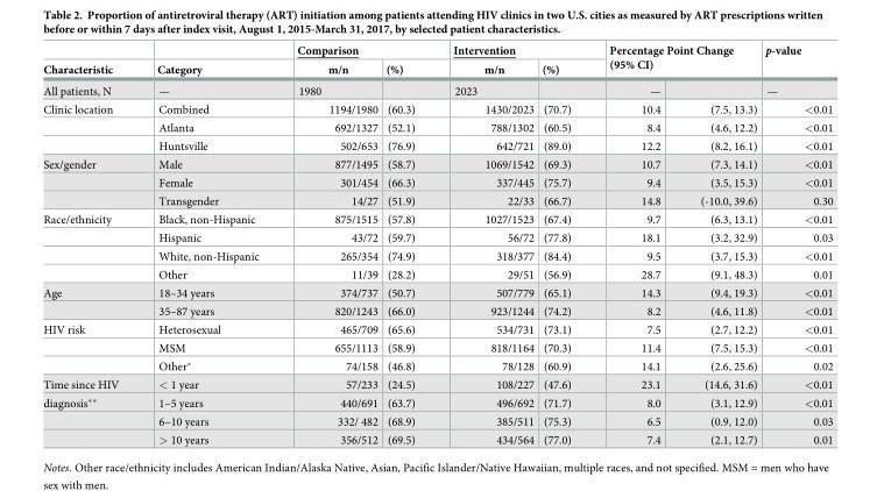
<table><thead><tr><td rowspan="3">Characteristic All patients, N</td><td rowspan="3">Category —</td><td colspan="2">Comparison</td><td colspan="2">Intervention</td><td rowspan="2" colspan="2">Percentage Point Change (95% CI)</td><td rowspan="3">p-value —</td></tr><tr><td rowspan="2">m/n 1980</td><td rowspan="2">(%)</td><td rowspan="2">m/n 2023</td><td rowspan="2">(%)</td></tr><tr><td>—</td><td></td></tr></thead><tbody><tr><td rowspan="3">Clinic location</td><td>Combined</td><td>1194/1980</td><td>(60.3)</td><td>1430/2023</td><td>(70.7)</td><td>10.4</td><td>(7.5, 13.3)</td><td>&lt;0.01</td></tr><tr><td>Atlanta</td><td>692/1327</td><td>(52.1)</td><td>788/1302</td><td>(60.5)</td><td>8.4</td><td>(4.6, 12.2)</td><td>&lt;0.01</td></tr><tr><td>Huntsville</td><td>502/653</td><td>(76.9)</td><td>642/721</td><td>(89.0)</td><td>12.2</td><td>(8.2, 16.1)</td><td>&lt;0.01</td></tr><tr><td rowspan="3">Sex/gender</td><td>Male</td><td>877/1495</td><td>(58.7)</td><td>1069/1542</td><td>(69.3)</td><td>10.7</td><td>(7.3, 14.1)</td><td>&lt;0.01</td></tr><tr><td>Female</td><td>301/454</td><td>(66.3)</td><td>337/445</td><td>(75.7)</td><td>9.4</td><td>(3.5, 15.3)</td><td>&lt;0.01</td></tr><tr><td>Transgender</td><td>14/27</td><td>(51.9)</td><td>22/33</td><td>(66.7)</td><td>14.8</td><td>(-10.0, 39.6)</td><td>0.30</td></tr><tr><td rowspan="4">Race/ethnicity</td><td>Black, non-Hispanic</td><td>875/1515</td><td>(57.8)</td><td>1027/1523</td><td>(67.4)</td><td>9.7</td><td>(6.3, 13.1)</td><td>&lt;0.01</td></tr><tr><td>Hispanic</td><td>43/72</td><td>(59.7)</td><td>56/72</td><td>(77.8)</td><td>18.1</td><td>(3.2, 32.9)</td><td>0.03</td></tr><tr><td>White, non-Hispanic</td><td>265/354</td><td>(74.9)</td><td>318/377</td><td>(84.4)</td><td>9.5</td><td>(3.7, 15.3)</td><td>&lt;0.01</td></tr><tr><td>Other</td><td>11/39</td><td>(28.2)</td><td>29/51</td><td>(56.9)</td><td>28.7</td><td>(9.1, 48.3)</td><td>0.01</td></tr><tr><td rowspan="2">Age</td><td>18–34 years</td><td>374/737</td><td>(50.7)</td><td>507/779</td><td>(65.1)</td><td>14.3</td><td>(9.4, 19.3)</td><td>&lt;0.01</td></tr><tr><td>35–87 years</td><td>820/1243</td><td>(66.0)</td><td>923/1244</td><td>(74.2)</td><td>8.2</td><td>(4.6, 11.8)</td><td>&lt;0.01</td></tr><tr><td rowspan="3">HIV risk</td><td>Heterosexual</td><td>465/709</td><td>(65.6)</td><td>534/731</td><td>(73.1)</td><td>7.5</td><td>(2.7, 12.2)</td><td>&lt;0.01</td></tr><tr><td>MSM</td><td>655/1113</td><td>(58.9)</td><td>818/1164</td><td>(70.3)</td><td>11.4</td><td>(7.5, 15.3)</td><td>&lt;0.01</td></tr><tr><td>Other*</td><td>74/158</td><td>(46.8)</td><td>78/128</td><td>(60.9)</td><td>14.1</td><td>(2.6, 25.6)</td><td>0.02</td></tr><tr><td>Time since HIV</td><td>&lt; 1 year</td><td>57/233</td><td>(24.5)</td><td>108/227</td><td>(47.6)</td><td>23.1</td><td>(14.6, 31.6)</td><td>&lt;0.01</td></tr><tr><td rowspan="3">diagnosis**</td><td>1–5 years</td><td>440/691</td><td>(63.7)</td><td>496/692</td><td>(71.7)</td><td>8.0</td><td>(3.1, 12.9)</td><td>&lt;0.01</td></tr><tr><td>6–10 years</td><td>332/ 482</td><td>(68.9)</td><td>385/511</td><td>(75.3)</td><td>6.5</td><td>(0.9, 12.0)</td><td>0.03</td></tr><tr><td>&gt; 10 years</td><td>356/512</td><td>(69.5)</td><td>434/564</td><td>(77.0)</td><td>7.4</td><td>(2.1, 12.7)</td><td>0.01</td></tr></tbody></table>